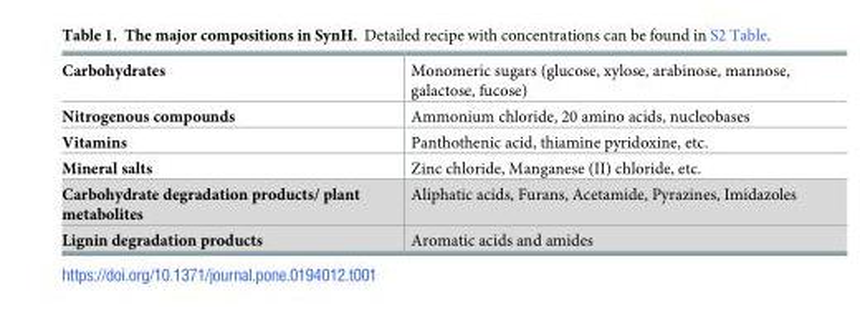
<table><tbody><tr><td>Carbohydrates</td><td>Monomeric sugars (glucose, xylose, arabinose, mannose, galactose, fucose)</td></tr><tr><td>Nitrogenous compounds</td><td>Ammonium chloride, 20 amino acids, nucleobases</td></tr><tr><td>Vitamins</td><td>Panthothenic acid, thiamine pyridoxine, etc.</td></tr><tr><td>Mineral salts</td><td>Zinc chloride, Manganese (II) chloride, etc.</td></tr><tr><td>Carbohydrate degradation products/ plant metabolites</td><td>Aliphatic acids, Furans, Acetamide, Pyrazines, Imidazoles</td></tr><tr><td>Lignin degradation products</td><td>Aromatic acids and amides</td></tr></tbody></table>